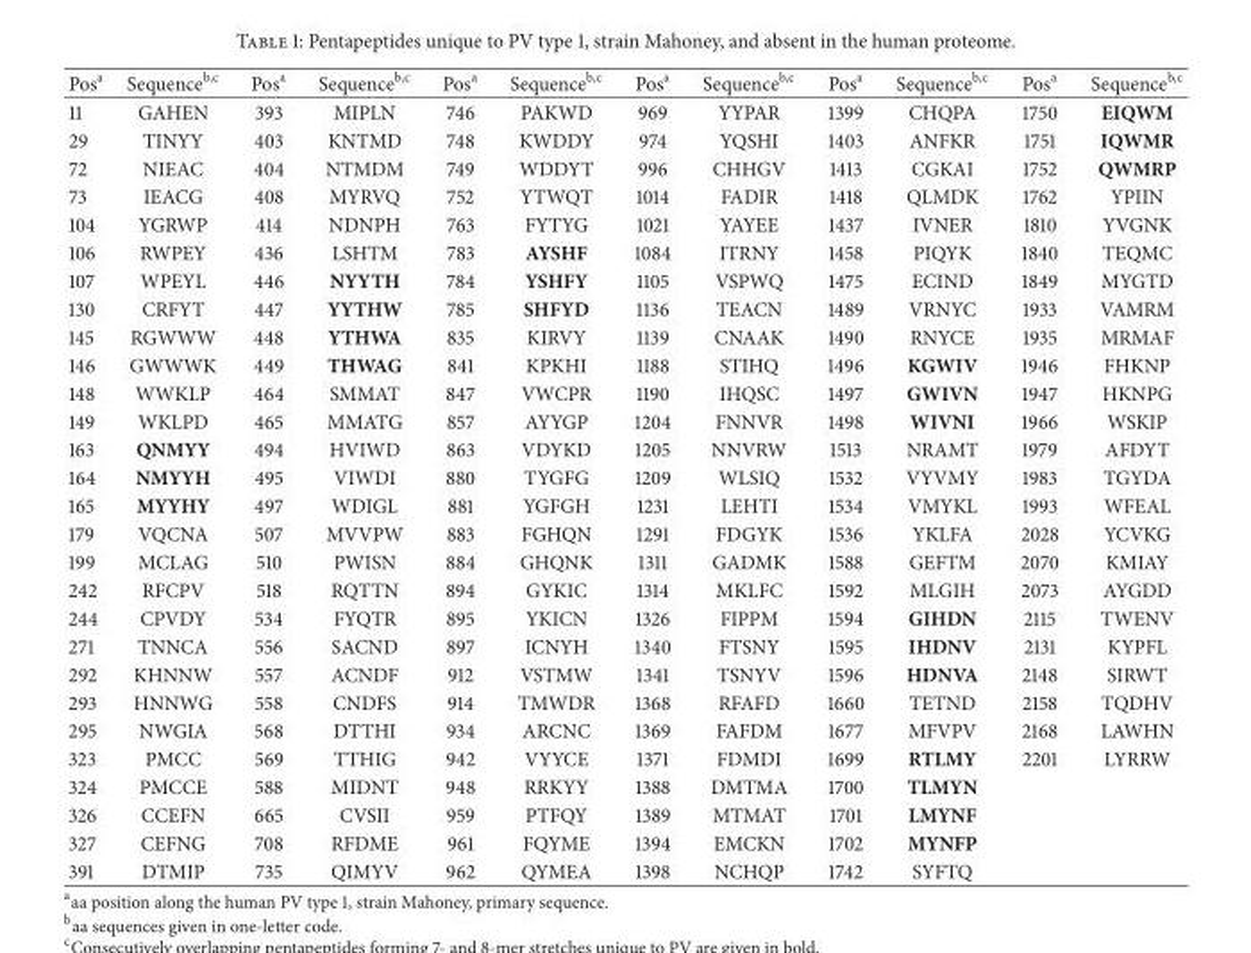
<table><thead><tr><td>Pos<sup>a</sup></td><td>Sequence<sup>b,c</sup></td><td>Pos<sup>a</sup></td><td>Sequence<sup>b,c</sup></td><td>Pos<sup>a</sup></td><td>Sequence<sup>b,c</sup></td><td>Pos<sup>a</sup></td><td>Sequence<sup>b,c</sup></td><td>Pos<sup>a</sup></td><td>Sequence<sup>b,c</sup></td><td>Pos<sup>a</sup></td><td>Sequence<sup>b,c</sup></td></tr></thead><tbody><tr><td>11</td><td>GAHEN</td><td>393</td><td>MIPLN</td><td>746</td><td>PAKWD</td><td>969</td><td>YYPAR</td><td>1399</td><td>CHQPA</td><td>1750</td><td>EIQWM</td></tr><tr><td>29</td><td>TINYY</td><td>403</td><td>KNTMD</td><td>748</td><td>KWDDY</td><td>974</td><td>YQSHI</td><td>1403</td><td>ANFKR</td><td>1751</td><td>IQWMR</td></tr><tr><td>72</td><td>NIEAC</td><td>404</td><td>NTMDM</td><td>749</td><td>WDDYT</td><td>996</td><td>CHHGV</td><td>1413</td><td>CGKAI</td><td>1752</td><td>QWMRP</td></tr><tr><td>73</td><td>IEACG</td><td>408</td><td>MYRVQ</td><td>752</td><td>YTWQT</td><td>1014</td><td>FADIR</td><td>1418</td><td>QLMDK</td><td>1762</td><td>YPIIN</td></tr><tr><td>104</td><td>YGRWP</td><td>414</td><td>NDNPH</td><td>763</td><td>FYTYG</td><td>1021</td><td>YAYEE</td><td>1437</td><td>IVNER</td><td>1810</td><td>YVGNK</td></tr><tr><td>106</td><td>RWPEY</td><td>436</td><td>LSHTM</td><td>783</td><td>AYSHF</td><td>1084</td><td>ITRNY</td><td>1458</td><td>PIQYK</td><td>1840</td><td>TEQMC</td></tr><tr><td>107</td><td>WPEYL</td><td>446</td><td>NYYTH</td><td>784</td><td>YSHFY</td><td>1105</td><td>VSPWQ</td><td>1475</td><td>ECIND</td><td>1849</td><td>MYGTD</td></tr><tr><td>130</td><td>CRFYT</td><td>447</td><td>YYTHW</td><td>785</td><td>SHFYD</td><td>1136</td><td>TEACN</td><td>1489</td><td>VRNYC</td><td>1933</td><td>VAMRM</td></tr><tr><td>145</td><td>RGWWW</td><td>448</td><td>YTHWA</td><td>835</td><td>KIRVY</td><td>1139</td><td>CNAAK</td><td>1490</td><td>RNYCE</td><td>1935</td><td>MRMAF</td></tr><tr><td>146</td><td>GWWWK</td><td>449</td><td>THWAG</td><td>841</td><td>KPKHI</td><td>1188</td><td>STIHQ</td><td>1496</td><td>KGWIV</td><td>1946</td><td>FHKNP</td></tr><tr><td>148</td><td>WWKLP</td><td>464</td><td>SMMAT</td><td>847</td><td>VWCPR</td><td>1190</td><td>IHQSC</td><td>1497</td><td>GWIVN</td><td>1947</td><td>HKNPG</td></tr><tr><td>149</td><td>WKLPD</td><td>465</td><td>MMATG</td><td>857</td><td>AYYGP</td><td>1204</td><td>FNNVR</td><td>1498</td><td>WIVNI</td><td>1966</td><td>WSKIP</td></tr><tr><td>163</td><td>QNMYY</td><td>494</td><td>HVIWD</td><td>863</td><td>VDYKD</td><td>1205</td><td>NNVRW</td><td>1513</td><td>NRAMT</td><td>1979</td><td>AFDYT</td></tr><tr><td>164</td><td>NMYYH</td><td>495</td><td>VIWDI</td><td>880</td><td>TYGFG</td><td>1209</td><td>WLSIQ</td><td>1532</td><td>VYVMY</td><td>1983</td><td>TGYDA</td></tr><tr><td>165</td><td>MYYHY</td><td>497</td><td>WDIGL</td><td>881</td><td>YGFGH</td><td>1231</td><td>LEHTI</td><td>1534</td><td>VMYKL</td><td>1993</td><td>WFEAL</td></tr><tr><td>179</td><td>VQCNA</td><td>507</td><td>MVVPW</td><td>883</td><td>FGHQN</td><td>1291</td><td>FDGYK</td><td>1536</td><td>YKLFA</td><td>2028</td><td>YCVKG</td></tr><tr><td>199</td><td>MCLAG</td><td>510</td><td>PWISN</td><td>884</td><td>GHQNK</td><td>1311</td><td>GADMK</td><td>1588</td><td>GEFTM</td><td>2070</td><td>KMIAY</td></tr><tr><td>242</td><td>RFCPV</td><td>518</td><td>RQTTN</td><td>894</td><td>GYKIC</td><td>1314</td><td>MKLFC</td><td>1592</td><td>MLGIH</td><td>2073</td><td>AYGDD</td></tr><tr><td>244</td><td>CPVDY</td><td>534</td><td>FYQTR</td><td>895</td><td>YKICN</td><td>1326</td><td>FIPPM</td><td>1594</td><td>GIHDN</td><td>2115</td><td>TWENV</td></tr><tr><td>271</td><td>TNNCA</td><td>556</td><td>SACND</td><td>897</td><td>ICNYH</td><td>1340</td><td>FTSNY</td><td>1595</td><td>IHDNV</td><td>2131</td><td>KYPFL</td></tr><tr><td>292</td><td>KHNNW</td><td>557</td><td>ACNDF</td><td>912</td><td>VSTMW</td><td>1341</td><td>TSNYV</td><td>1596</td><td>HDNVA</td><td>2148</td><td>SIRWT</td></tr><tr><td>293</td><td>HNNWG</td><td>558</td><td>CNDFS</td><td>914</td><td>TMWDR</td><td>1368</td><td>RFAFD</td><td>1660</td><td>TETND</td><td>2158</td><td>TQDHV</td></tr><tr><td>295</td><td>NWGIA</td><td>568</td><td>DTTHI</td><td>934</td><td>ARCNC</td><td>1369</td><td>FAFDM</td><td>1677</td><td>MFVPV</td><td>2168</td><td>LAWHN</td></tr><tr><td>323</td><td>PMCC</td><td>569</td><td>TTHIG</td><td>942</td><td>VYYCE</td><td>1371</td><td>FDMDI</td><td>1699</td><td>RTLMY</td><td>2201</td><td>LYRRW</td></tr><tr><td>324</td><td>PMCCE</td><td>588</td><td>MIDNT</td><td>948</td><td>RRKYY</td><td>1388</td><td>DMTMA</td><td>1700</td><td>TLMYN</td><td></td><td></td></tr><tr><td>326</td><td>CCEFN</td><td>665</td><td>CVSII</td><td>959</td><td>PTFQY</td><td>1389</td><td>MTMAT</td><td>1701</td><td>LMYNF</td><td></td><td></td></tr><tr><td>327</td><td>CEFNG</td><td>708</td><td>RFDME</td><td>961</td><td>FQYME</td><td>1394</td><td>EMCKN</td><td>1702</td><td>MYNFP</td><td></td><td></td></tr><tr><td>391</td><td>DTMIP</td><td>735</td><td>QIMYV</td><td>962</td><td>QYMEA</td><td>1398</td><td>NCHQP</td><td>1742</td><td>SYFTQ</td><td></td><td></td></tr></tbody></table>